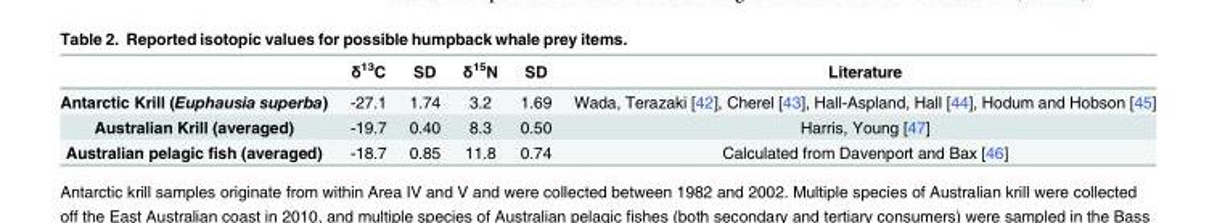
<table><thead><tr><td></td><td>δ<sup>13</sup>C</td><td>SD</td><td>δ<sup>15</sup>N</td><td>SD</td><td>Literature</td></tr></thead><tbody><tr><td>Antarctic Krill (Euphausia superba)</td><td>-27.1</td><td>1.74</td><td>3.2</td><td>1.69</td><td>Wada, Terazaki [42], Cherel [43], Hall-Aspland, Hall [44], Hodum and Hobson [45]</td></tr><tr><td>Australian Krill (averaged)</td><td>-19.7</td><td>0.40</td><td>8.3</td><td>0.50</td><td>Harris, Young [47]</td></tr><tr><td>Australian pelagic fish (averaged)</td><td>-18.7</td><td>0.85</td><td>11.8</td><td>0.74</td><td>Calculated from Davenport and Bax [46]</td></tr></tbody></table>